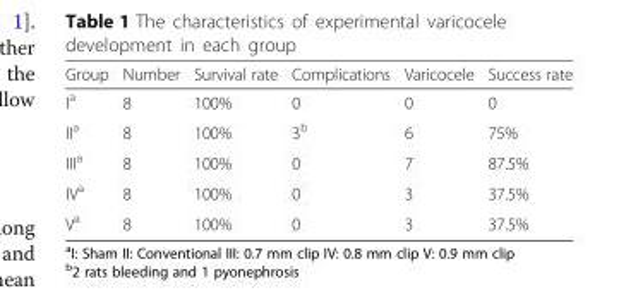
<table><thead><tr><td>Group</td><td>Number</td><td>Survival rate</td><td>Complications</td><td>Varicocele</td><td>Success rate</td></tr></thead><tbody><tr><td>I<sup>a</sup></td><td>8</td><td>100%</td><td>0</td><td>0</td><td>0</td></tr><tr><td>II<sup>a</sup></td><td>8</td><td>100%</td><td>3<sup>b</sup></td><td>6</td><td>75%</td></tr><tr><td>III<sup>a</sup></td><td>8</td><td>100%</td><td>0</td><td>7</td><td>87.5%</td></tr><tr><td>IV<sup>a</sup></td><td>8</td><td>100%</td><td>0</td><td>3</td><td>37.5%</td></tr><tr><td>V<sup>a</sup></td><td>8</td><td>100%</td><td>0</td><td>3</td><td>37.5%</td></tr></tbody></table>